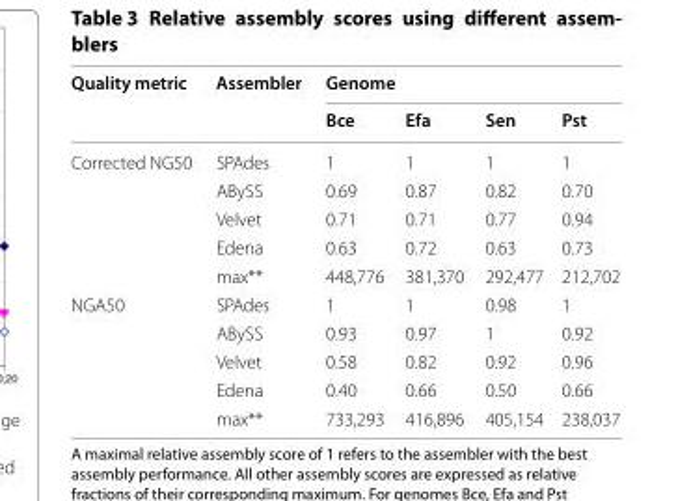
<table><thead><tr><td rowspan="2">Quality metric</td><td rowspan="2">Assembler</td><td colspan="4">Genome</td></tr><tr><td>Bce</td><td>Efa</td><td>Sen</td><td>Pst</td></tr></thead><tbody><tr><td rowspan="5">Corrected NG50</td><td>SPAdes</td><td>1</td><td>1</td><td>1</td><td>1</td></tr><tr><td>ABySS</td><td>0.69</td><td>0.87</td><td>0.82</td><td>0.70</td></tr><tr><td>Velvet</td><td>0.71</td><td>0.71</td><td>0.77</td><td>0.94</td></tr><tr><td>Edena</td><td>0.63</td><td>0.72</td><td>0.63</td><td>0.73</td></tr><tr><td>max**</td><td>448,776</td><td>381,370</td><td>292,477</td><td>212,702</td></tr><tr><td rowspan="5">NGA50</td><td>SPAdes</td><td>1</td><td>1</td><td>0.98</td><td>1</td></tr><tr><td>ABySS</td><td>0.93</td><td>0.97</td><td>1</td><td>0.92</td></tr><tr><td>Velvet</td><td>0.58</td><td>0.82</td><td>0.92</td><td>0.96</td></tr><tr><td>Edena</td><td>0.40</td><td>0.66</td><td>0.50</td><td>0.66</td></tr><tr><td>max**</td><td>733,293</td><td>416,896</td><td>405,154</td><td>238,037</td></tr></tbody></table>